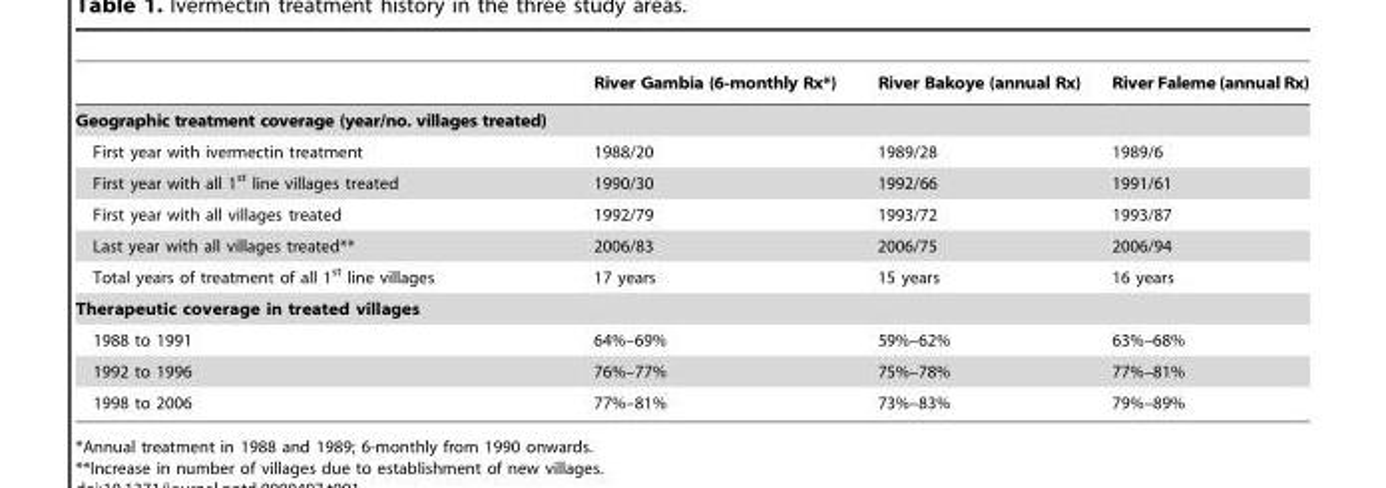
<table><thead><tr><td></td><td>River Gambia (6-monthly Rx*)</td><td>River Bakoye (annual Rx)</td><td>River Faleme (annual Rx)</td></tr></thead><tbody><tr><td colspan="4">Geographic treatment coverage (year/no. villages treated)</td></tr><tr><td>First year with ivermectin treatment</td><td>1988/20</td><td>1989/28</td><td>1989/6</td></tr><tr><td>First year with all 1<sup>st</sup> line villages treated</td><td>1990/30</td><td>1992/66</td><td>1991/61</td></tr><tr><td>First year with all villages treated</td><td>1992/79</td><td>1993/72</td><td>1993/87</td></tr><tr><td>Last year with all villages treated**</td><td>2006/83</td><td>2006/75</td><td>2006/94</td></tr><tr><td>Total years of treatment of all 1<sup>st</sup> line villages</td><td>17 years</td><td>15 years</td><td>16 years</td></tr><tr><td colspan="4">Therapeutic coverage in treated villages</td></tr><tr><td>1988 to 1991</td><td>64%–69%</td><td>59%–62%</td><td>63%–68%</td></tr><tr><td>1992 to 1996</td><td>76%–77%</td><td>75%–78%</td><td>77%–81%</td></tr><tr><td>1998 to 2006</td><td>77%–81%</td><td>73%–83%</td><td>79%–89%</td></tr></tbody></table>